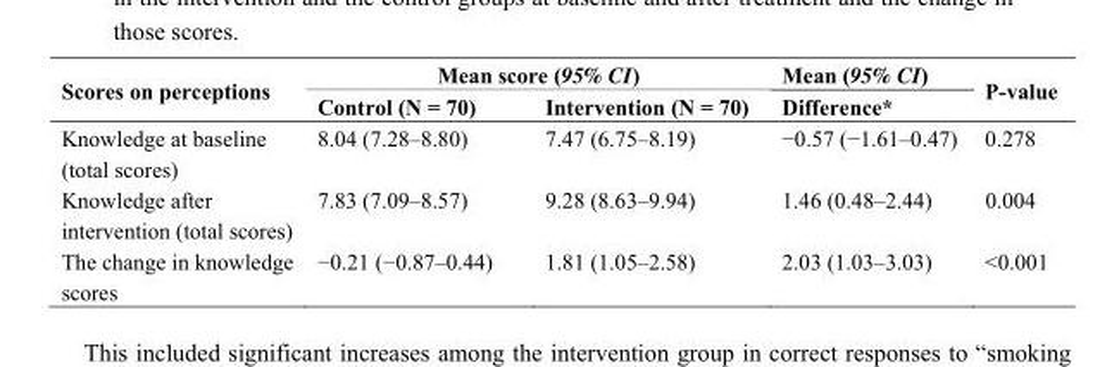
<table><thead><tr><td rowspan="2">Scores on perceptions</td><td colspan="2">Mean score (95% CI)</td><td rowspan="2">Mean (95% CI) Difference*</td><td rowspan="2">P-value</td></tr><tr><td>Control (N = 70)</td><td>Intervention (N = 70)</td></tr></thead><tbody><tr><td>Knowledge at baseline (total scores)</td><td>8.04 (7.28–8.80)</td><td>7.47 (6.75–8.19)</td><td>−0.57 (−1.61–0.47)</td><td>0.278</td></tr><tr><td>Knowledge after intervention (total scores)</td><td>7.83 (7.09–8.57)</td><td>9.28 (8.63–9.94)</td><td>1.46 (0.48–2.44)</td><td>0.004</td></tr><tr><td>The change in knowledge scores</td><td>−0.21 (−0.87–0.44)</td><td>1.81 (1.05–2.58)</td><td>2.03 (1.03–3.03)</td><td>&lt;0.001</td></tr></tbody></table>